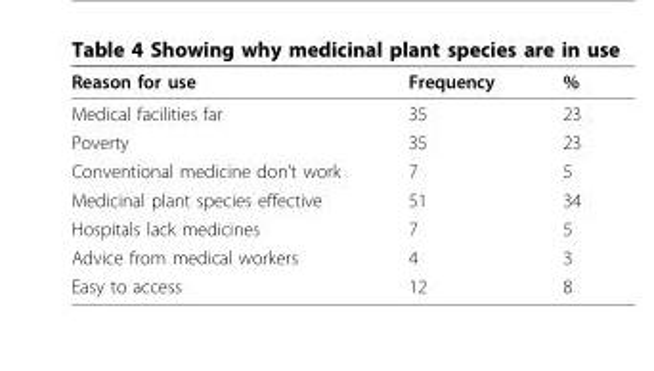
<table><thead><tr><td>Reason for use</td><td>Frequency</td><td>%</td></tr></thead><tbody><tr><td>Medical facilities far</td><td>35</td><td>23</td></tr><tr><td>Poverty</td><td>35</td><td>23</td></tr><tr><td>Conventional medicine don’t work</td><td>7</td><td>5</td></tr><tr><td>Medicinal plant species effective</td><td>51</td><td>34</td></tr><tr><td>Hospitals lack medicines</td><td>7</td><td>5</td></tr><tr><td>Advice from medical workers</td><td>4</td><td>3</td></tr><tr><td>Easy to access</td><td>12</td><td>8</td></tr></tbody></table>